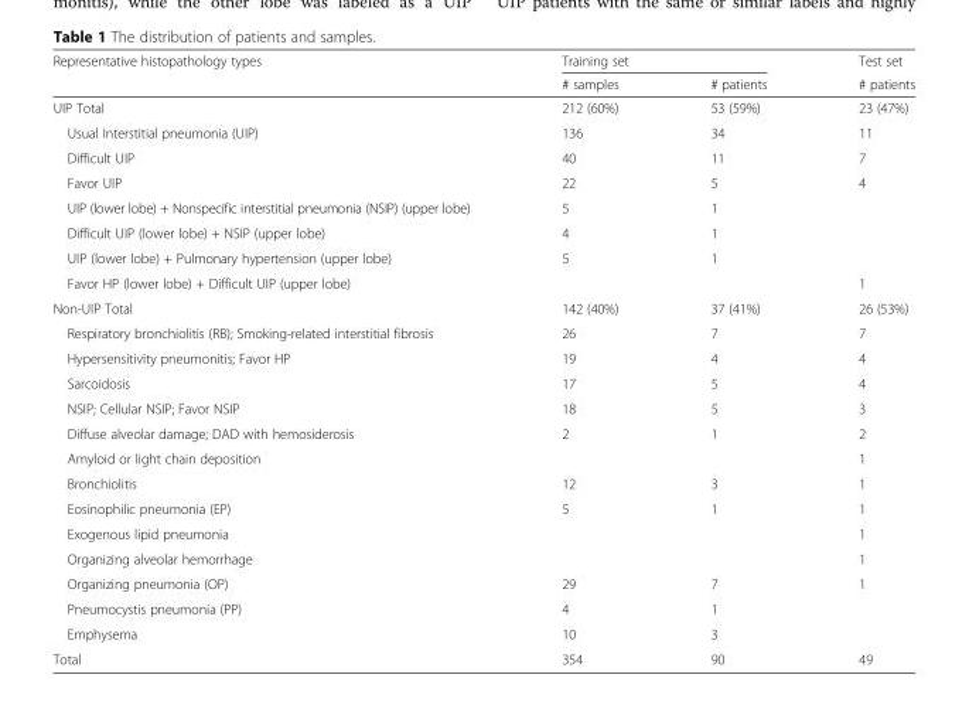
<table><thead><tr><td rowspan="2">Representative histopathology types</td><td colspan="2">Training set</td><td rowspan="2">Test set # patients</td></tr><tr><td># samples</td><td># patients</td></tr></thead><tbody><tr><td>UIP Total</td><td>212 (60%)</td><td>53 (59%)</td><td>23 (47%)</td></tr><tr><td>Usual Interstitial pneumonia (UIP)</td><td>136</td><td>34</td><td>11</td></tr><tr><td>Difficult UIP</td><td>40</td><td>11</td><td>7</td></tr><tr><td>Favor UIP</td><td>22</td><td>5</td><td>4</td></tr><tr><td>UIP (lower lobe) + Nonspecific interstitial pneumonia (NSIP) (upper lobe)</td><td>5</td><td>1</td><td></td></tr><tr><td>Difficult UIP (lower lobe) + NSIP (upper lobe)</td><td>4</td><td>1</td><td></td></tr><tr><td>UIP (lower lobe) + Pulmonary hypertension (upper lobe)</td><td>5</td><td>1</td><td></td></tr><tr><td>Favor HP (lower lobe) + Difficult UIP (upper lobe)</td><td></td><td></td><td>1</td></tr><tr><td>Non-UIP Total</td><td>142 (40%)</td><td>37 (41%)</td><td>26 (53%)</td></tr><tr><td>Respiratory bronchiolitis (RB); Smoking-related interstitial fibrosis</td><td>26</td><td>7</td><td>7</td></tr><tr><td>Hypersensitivity pneumonitis; Favor HP</td><td>19</td><td>4</td><td>4</td></tr><tr><td>Sarcoidosis</td><td>17</td><td>5</td><td>4</td></tr><tr><td>NSIP; Cellular NSIP; Favor NSIP</td><td>18</td><td>5</td><td>3</td></tr><tr><td>Diffuse alveolar damage; DAD with hemosiderosis</td><td>2</td><td>1</td><td>2</td></tr><tr><td>Amyloid or light chain deposition</td><td></td><td></td><td>1</td></tr><tr><td>Bronchiolitis</td><td>12</td><td>3</td><td>1</td></tr><tr><td>Eosinophilic pneumonia (EP)</td><td>5</td><td>1</td><td>1</td></tr><tr><td>Exogenous lipid pneumonia</td><td></td><td></td><td>1</td></tr><tr><td>Organizing alveolar hemorrhage</td><td></td><td></td><td>1</td></tr><tr><td>Organizing pneumonia (OP)</td><td>29</td><td>7</td><td>1</td></tr><tr><td>Pneumocystis pneumonia (PP)</td><td>4</td><td>1</td><td></td></tr><tr><td>Emphysema</td><td>10</td><td>3</td><td></td></tr><tr><td>Total</td><td>354</td><td>90</td><td>49</td></tr></tbody></table>